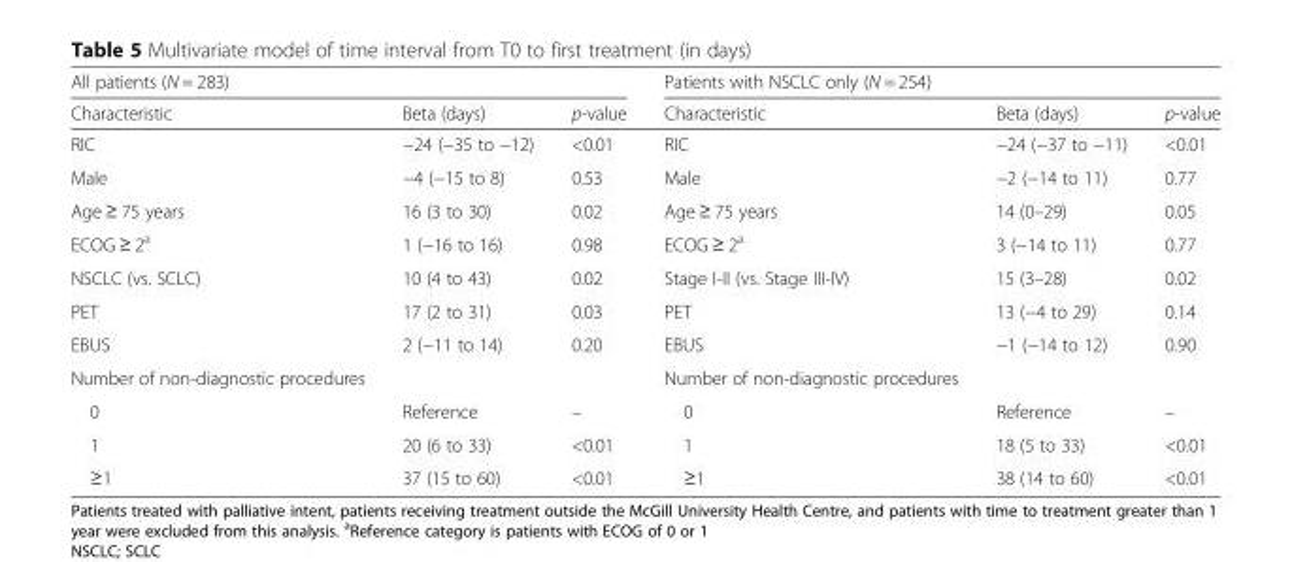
<table><thead><tr><td colspan="3">All patients (N = 283)</td><td colspan="3">Patients with NSCLC only (N = 254)</td></tr><tr><td>Characteristic</td><td>Beta (days)</td><td>p-value</td><td>Characteristic</td><td>Beta (days)</td><td>p-value</td></tr></thead><tbody><tr><td>RIC</td><td>−24 (−35 to −12)</td><td>&lt;0.01</td><td>RIC</td><td>−24 (−37 to −11)</td><td>&lt;0.01</td></tr><tr><td>Male</td><td>−4 (−15 to 8)</td><td>0.53</td><td>Male</td><td>−2 (−14 to 11)</td><td>0.77</td></tr><tr><td>Age ≥ 75 years</td><td>16 (3 to 30)</td><td>0.02</td><td>Age ≥ 75 years</td><td>14 (0–29)</td><td>0.05</td></tr><tr><td>ECOG ≥ 2<sup>a</sup></td><td>1 (−16 to 16)</td><td>0.98</td><td>ECOG ≥ 2<sup>a</sup></td><td>3 (−14 to 11)</td><td>0.77</td></tr><tr><td>NSCLC (vs. SCLC)</td><td>10 (4 to 43)</td><td>0.02</td><td>Stage I-II (vs. Stage III-IV)</td><td>15 (3–28)</td><td>0.02</td></tr><tr><td>PET</td><td>17 (2 to 31)</td><td>0.03</td><td>PET</td><td>13 (−4 to 29)</td><td>0.14</td></tr><tr><td>EBUS</td><td>2 (−11 to 14)</td><td>0.20</td><td>EBUS</td><td>−1 (−14 to 12)</td><td>0.90</td></tr><tr><td>Number of non-diagnostic procedures</td><td></td><td></td><td>Number of non-diagnostic procedures</td><td></td><td></td></tr><tr><td>0</td><td>Reference</td><td>–</td><td>0</td><td>Reference</td><td>–</td></tr><tr><td>1</td><td>20 (6 to 33)</td><td>&lt;0.01</td><td>1</td><td>18 (5 to 33)</td><td>&lt;0.01</td></tr><tr><td>≥1</td><td>37 (15 to 60)</td><td>&lt;0.01</td><td>≥1</td><td>38 (14 to 60)</td><td>&lt;0.01</td></tr></tbody></table>